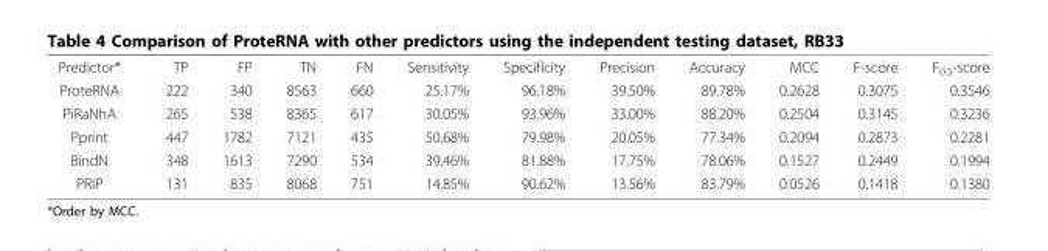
<table><tbody><tr><td>Predictor*</td><td>TP</td><td>FP</td><td>TN</td><td>FN</td><td>Sensitivity</td><td>Specificity</td><td>Precision</td><td>Accuracy</td><td>MCC</td><td>F-score</td><td>F<sub>0.5</sub>-score</td></tr><tr><td>ProteRNA</td><td>222</td><td>340</td><td>8563</td><td>660</td><td>25.17%</td><td>96.18%</td><td>39.50%</td><td>89.78%</td><td>0.2628</td><td>0.3075</td><td>0.3546</td></tr><tr><td>PiRaNhA</td><td>265</td><td>538</td><td>8365</td><td>617</td><td>30.05%</td><td>93.96%</td><td>33.00%</td><td>88.20%</td><td>0.2504</td><td>0.3145</td><td>0.3236</td></tr><tr><td>Pprint</td><td>447</td><td>1782</td><td>7121</td><td>435</td><td>50.68%</td><td>79.98%</td><td>20.05%</td><td>77.34%</td><td>0.2094</td><td>0.2873</td><td>0.2281</td></tr><tr><td>BindN</td><td>348</td><td>1613</td><td>7290</td><td>534</td><td>39.46%</td><td>81.88%</td><td>17.75%</td><td>78.06%</td><td>0.1527</td><td>0.2449</td><td>0.1994</td></tr><tr><td>PRIP</td><td>131</td><td>835</td><td>8068</td><td>751</td><td>14.85%</td><td>90.62%</td><td>13.56%</td><td>83.79%</td><td>0.0526</td><td>0.1418</td><td>0.1380</td></tr></tbody></table>